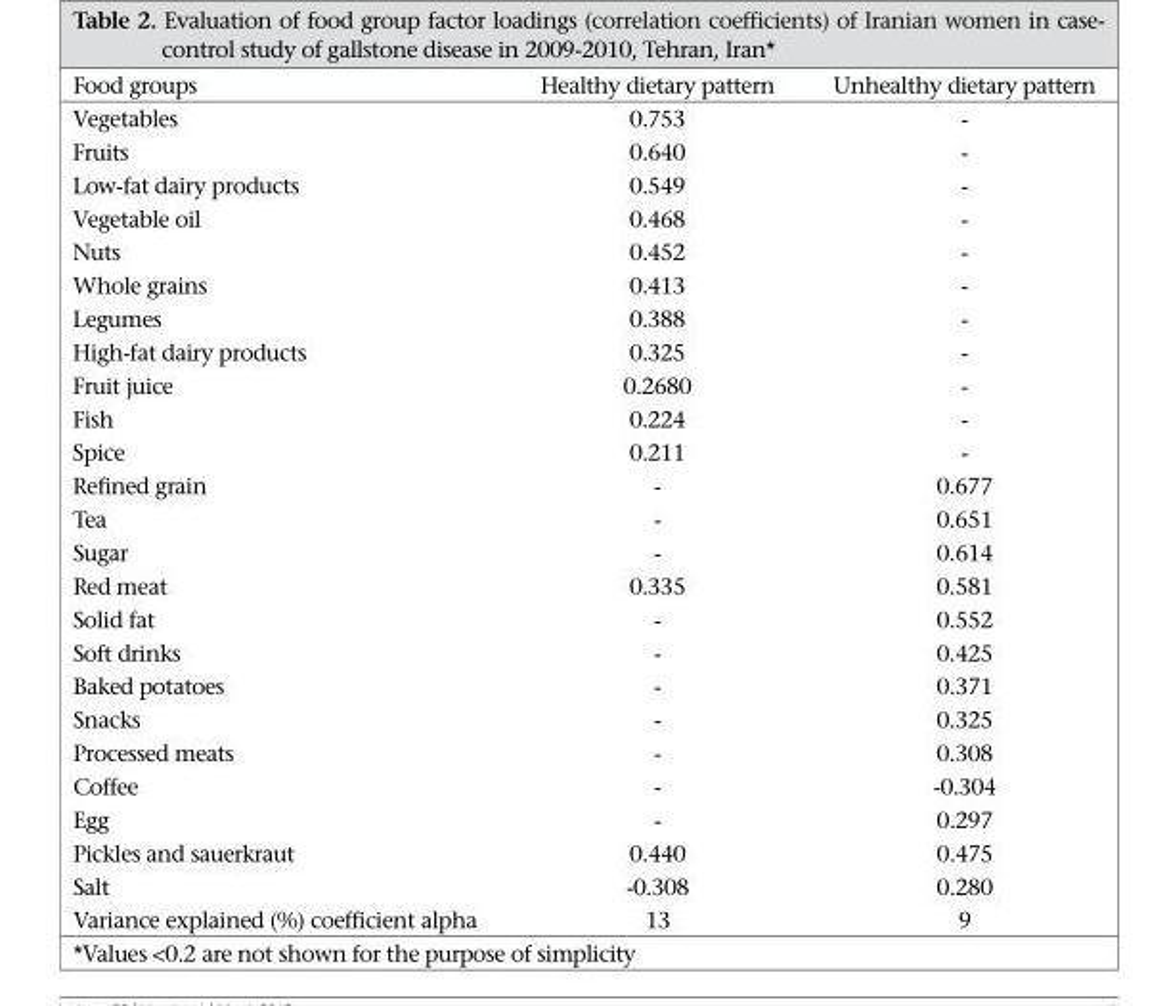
<table><thead><tr><td>Food groups</td><td>Healthy dietary pattern</td><td>Unhealthy dietary pattern</td></tr></thead><tbody><tr><td>Vegetables</td><td>0.753</td><td>-</td></tr><tr><td>Fruits</td><td>0.640</td><td>-</td></tr><tr><td>Low-fat dairy products</td><td>0.549</td><td>-</td></tr><tr><td>Vegetable oil</td><td>0.468</td><td>-</td></tr><tr><td>Nuts</td><td>0.452</td><td>-</td></tr><tr><td>Whole grains</td><td>0.413</td><td>-</td></tr><tr><td>Legumes</td><td>0.388</td><td>-</td></tr><tr><td>High-fat dairy products</td><td>0.325</td><td>-</td></tr><tr><td>Fruit juice</td><td>0.2680</td><td>-</td></tr><tr><td>Fish</td><td>0.224</td><td>-</td></tr><tr><td>Spice</td><td>0.211</td><td>-</td></tr><tr><td>Refined grain</td><td>-</td><td>0.677</td></tr><tr><td>Tea</td><td>-</td><td>0.651</td></tr><tr><td>Sugar</td><td>-</td><td>0.614</td></tr><tr><td>Red meat</td><td>0.335</td><td>0.581</td></tr><tr><td>Solid fat</td><td>-</td><td>0.552</td></tr><tr><td>Soft drinks</td><td>-</td><td>0.425</td></tr><tr><td>Baked potatoes</td><td>-</td><td>0.371</td></tr><tr><td>Snacks</td><td>-</td><td>0.325</td></tr><tr><td>Processed meats</td><td>-</td><td>0.308</td></tr><tr><td>Coffee</td><td>-</td><td>-0.304</td></tr><tr><td>Egg</td><td>-</td><td>0.297</td></tr><tr><td>Pickles and sauerkraut</td><td>0.440</td><td>0.475</td></tr><tr><td>Salt</td><td>-0.308</td><td>0.280</td></tr><tr><td>Variance explained (%) coefficient alpha</td><td>13</td><td>9</td></tr></tbody></table>